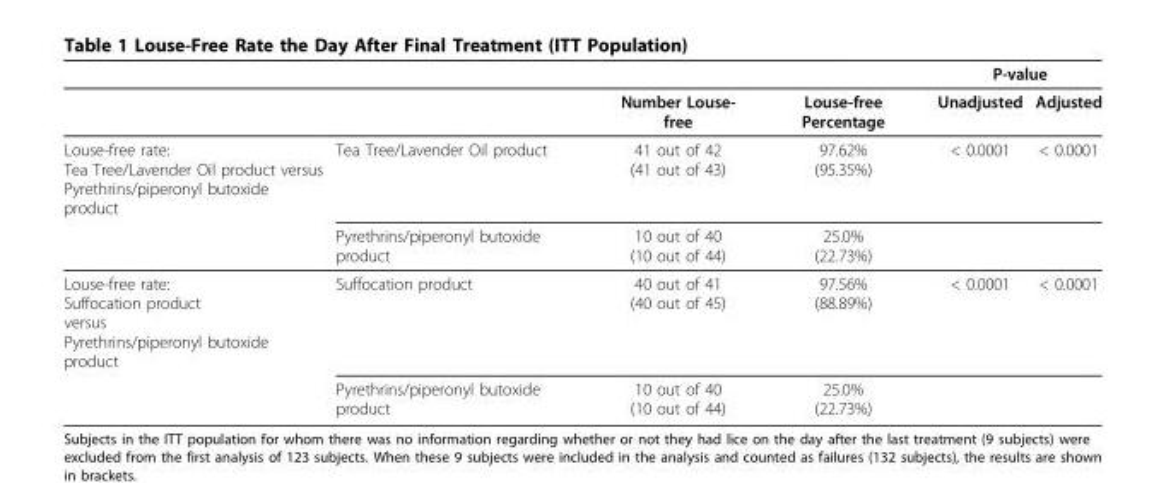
<table><thead><tr><td rowspan="2"></td><td rowspan="2"></td><td rowspan="2">Number Louse- free</td><td rowspan="2">Louse-free Percentage</td><td colspan="2">P-value</td></tr><tr><td>Unadjusted</td><td>Adjusted</td></tr></thead><tbody><tr><td rowspan="2">Louse-free rate: Tea Tree/Lavender Oil product versus Pyrethrins/piperonyl butoxide product</td><td>Tea Tree/Lavender Oil product</td><td>41 out of 42 (41 out of 43)</td><td>97.62% (95.35%)</td><td>&lt; 0.0001</td><td>&lt; 0.0001</td></tr><tr><td>Pyrethrins/piperonyl butoxide product</td><td>10 out of 40 (10 out of 44)</td><td>25.0% (22.73%)</td><td></td><td></td></tr><tr><td rowspan="2">Louse-free rate: Suffocation product versus Pyrethrins/piperonyl butoxide product</td><td>Suffocation product</td><td>40 out of 41 (40 out of 45)</td><td>97.56% (88.89%)</td><td>&lt; 0.0001</td><td>&lt; 0.0001</td></tr><tr><td>Pyrethrins/piperonyl butoxide product</td><td>10 out of 40 (10 out of 44)</td><td>25.0% (22.73%)</td><td></td><td></td></tr></tbody></table>